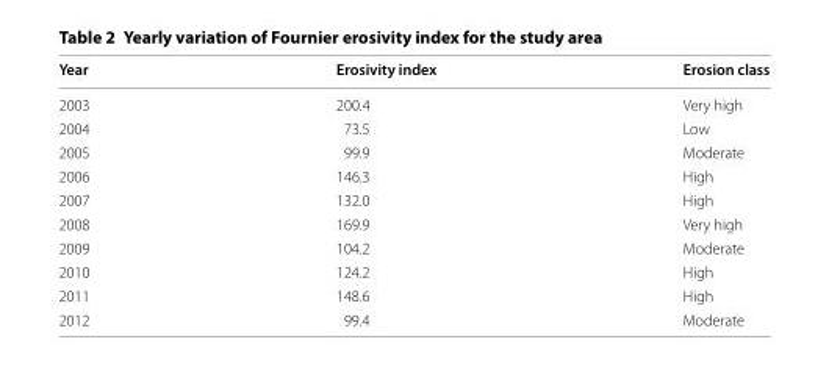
<table><thead><tr><td>Year</td><td>Erosivity index</td><td>Erosion class</td></tr></thead><tbody><tr><td>2003</td><td>200.4</td><td>Very high</td></tr><tr><td>2004</td><td>73.5</td><td>Low</td></tr><tr><td>2005</td><td>99.9</td><td>Moderate</td></tr><tr><td>2006</td><td>146.3</td><td>High</td></tr><tr><td>2007</td><td>132.0</td><td>High</td></tr><tr><td>2008</td><td>169.9</td><td>Very high</td></tr><tr><td>2009</td><td>104.2</td><td>Moderate</td></tr><tr><td>2010</td><td>124.2</td><td>High</td></tr><tr><td>2011</td><td>148.6</td><td>High</td></tr><tr><td>2012</td><td>99.4</td><td>Moderate</td></tr></tbody></table>